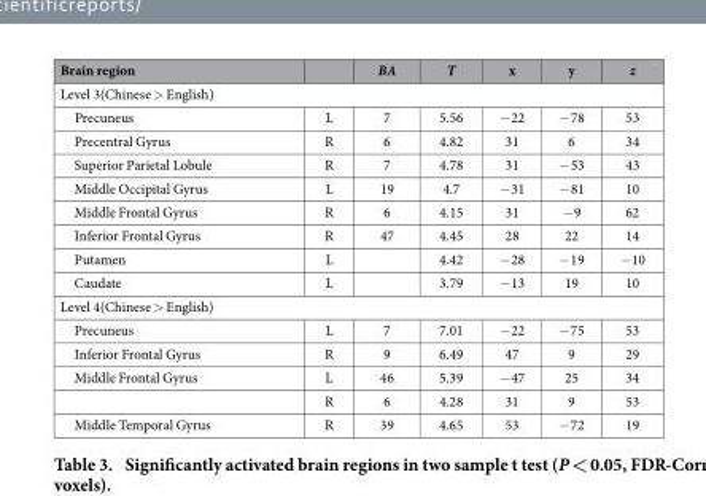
<table><thead><tr><td>Brain region</td><td></td><td>BA</td><td>T</td><td>x</td><td>y</td><td>z</td></tr></thead><tbody><tr><td colspan="7">Level 3(Chinese &gt; English)</td></tr><tr><td>Precuneus</td><td>L</td><td>7</td><td>5.56</td><td>− 22</td><td>− 78</td><td>53</td></tr><tr><td>Precentral Gyrus</td><td>R</td><td>6</td><td>4.82</td><td>31</td><td>6</td><td>34</td></tr><tr><td>Superior Parietal Lobule</td><td>R</td><td>7</td><td>4.78</td><td>31</td><td>− 53</td><td>43</td></tr><tr><td>Middle Occipital Gyrus</td><td>L</td><td>19</td><td>4.7</td><td>− 31</td><td>− 81</td><td>10</td></tr><tr><td>Middle Frontal Gyrus</td><td>R</td><td>6</td><td>4.15</td><td>31</td><td>− 9</td><td>62</td></tr><tr><td>Inferior Frontal Gyrus</td><td>R</td><td>47</td><td>4.45</td><td>28</td><td>22</td><td>14</td></tr><tr><td>Putamen</td><td>L</td><td></td><td>4.42</td><td>− 28</td><td>− 19</td><td>− 10</td></tr><tr><td>Caudate</td><td>L</td><td></td><td>3.79</td><td>− 13</td><td>19</td><td>10</td></tr><tr><td colspan="7">Level 4(Chinese &gt; English)</td></tr><tr><td>Precuneus</td><td>L</td><td>7</td><td>7.01</td><td>− 22</td><td>− 75</td><td>53</td></tr><tr><td>Inferior Frontal Gyrus</td><td>R</td><td>9</td><td>6.49</td><td>47</td><td>9</td><td>29</td></tr><tr><td rowspan="2">Middle Frontal Gyrus</td><td>L</td><td>46</td><td>5.39</td><td>− 47</td><td>25</td><td>34</td></tr><tr><td>R</td><td>6</td><td>4.28</td><td>31</td><td>9</td><td>53</td></tr><tr><td>Middle Temporal Gyrus</td><td>R</td><td>39</td><td>4.65</td><td>53</td><td>− 72</td><td>19</td></tr></tbody></table>